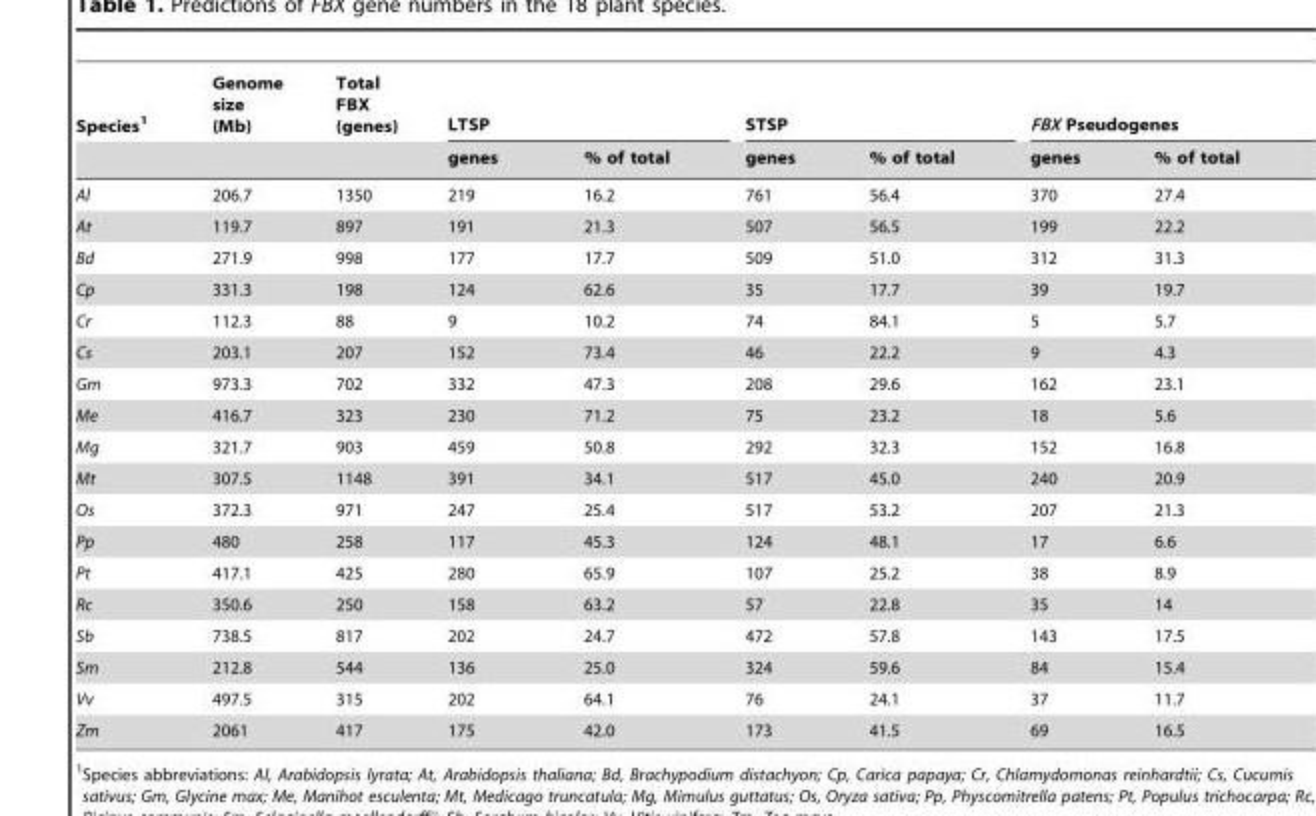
<table><thead><tr><td rowspan="2">Species<sup>1</sup></td><td rowspan="2">Genome size (Mb)</td><td rowspan="2">Total FBX (genes)</td><td colspan="2">LTSP</td><td colspan="2">STSP</td><td colspan="2">FBX Pseudogenes</td></tr><tr><td>genes</td><td>% of total</td><td>genes</td><td>% of total</td><td>genes</td><td>% of total</td></tr></thead><tbody><tr><td>Al</td><td>206.7</td><td>1350</td><td>219</td><td>16.2</td><td>761</td><td>56.4</td><td>370</td><td>27.4</td></tr><tr><td>At</td><td>119.7</td><td>897</td><td>191</td><td>21.3</td><td>507</td><td>56.5</td><td>199</td><td>22.2</td></tr><tr><td>Bd</td><td>271.9</td><td>998</td><td>177</td><td>17.7</td><td>509</td><td>51.0</td><td>312</td><td>31.3</td></tr><tr><td>Cp</td><td>331.3</td><td>198</td><td>124</td><td>62.6</td><td>35</td><td>17.7</td><td>39</td><td>19.7</td></tr><tr><td>Cr</td><td>112.3</td><td>88</td><td>9</td><td>10.2</td><td>74</td><td>84.1</td><td>5</td><td>5.7</td></tr><tr><td>Cs</td><td>203.1</td><td>207</td><td>152</td><td>73.4</td><td>46</td><td>22.2</td><td>9</td><td>4.3</td></tr><tr><td>Gm</td><td>973.3</td><td>702</td><td>332</td><td>47.3</td><td>208</td><td>29.6</td><td>162</td><td>23.1</td></tr><tr><td>Me</td><td>416.7</td><td>323</td><td>230</td><td>71.2</td><td>75</td><td>23.2</td><td>18</td><td>5.6</td></tr><tr><td>Mg</td><td>321.7</td><td>903</td><td>459</td><td>50.8</td><td>292</td><td>32.3</td><td>152</td><td>16.8</td></tr><tr><td>Mt</td><td>307.5</td><td>1148</td><td>391</td><td>34.1</td><td>517</td><td>45.0</td><td>240</td><td>20.9</td></tr><tr><td>Os</td><td>372.3</td><td>971</td><td>247</td><td>25.4</td><td>517</td><td>53.2</td><td>207</td><td>21.3</td></tr><tr><td>Pp</td><td>480</td><td>258</td><td>117</td><td>45.3</td><td>124</td><td>48.1</td><td>17</td><td>6.6</td></tr><tr><td>Pt</td><td>417.1</td><td>425</td><td>280</td><td>65.9</td><td>107</td><td>25.2</td><td>38</td><td>8.9</td></tr><tr><td>Rc</td><td>350.6</td><td>250</td><td>158</td><td>63.2</td><td>57</td><td>22.8</td><td>35</td><td>14</td></tr><tr><td>Sb</td><td>738.5</td><td>817</td><td>202</td><td>24.7</td><td>472</td><td>57.8</td><td>143</td><td>17.5</td></tr><tr><td>Sm</td><td>212.8</td><td>544</td><td>136</td><td>25.0</td><td>324</td><td>59.6</td><td>84</td><td>15.4</td></tr><tr><td>Vv</td><td>497.5</td><td>315</td><td>202</td><td>64.1</td><td>76</td><td>24.1</td><td>37</td><td>11.7</td></tr><tr><td>Zm</td><td>2061</td><td>417</td><td>175</td><td>42.0</td><td>173</td><td>41.5</td><td>69</td><td>16.5</td></tr></tbody></table>